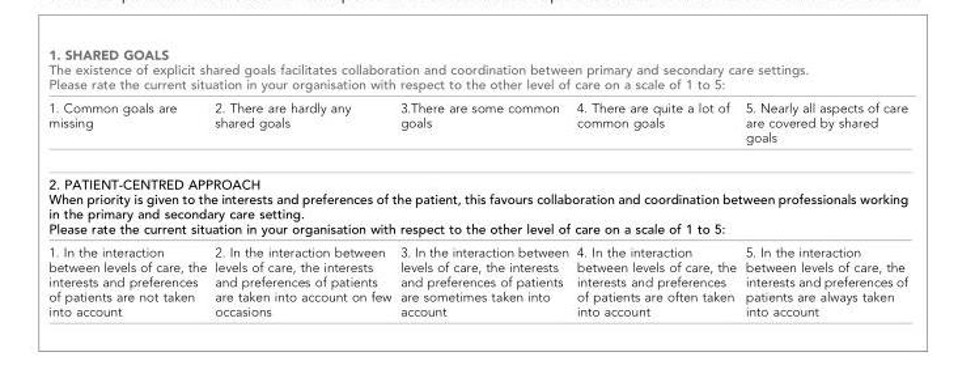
<table><thead><tr><td colspan="5">1. SHARED GOALS The existence of explicit shared goals facilitates collaboration and coordination between primary and secondary care settings. Please rate the current situation in your organisation with respect to the other level of care on a scale of 1 to 5:</td></tr><tr><td>1. Common goals are missing</td><td>2. There are hardly any shared goals</td><td>3.There are some common goals</td><td>4. There are quite a lot of common goals</td><td>5. Nearly all aspects of care are covered by shared goals</td></tr></thead><tbody><tr><td colspan="5">2. PATIENT-CENTRED APPROACH When priority is given to the interests and preferences of the patient, this favours collaboration and coordination between professionals working in the primary and secondary care setting. Please rate the current situation in your organisation with respect to the other level of care on a scale of 1 to 5:</td></tr><tr><td>1. In the interaction between levels of care, the interests and preferences of patients are not taken into account</td><td>2. In the interaction between levels of care, the interests and preferences of patients are taken into account on few occasions</td><td>3. In the interaction between levels of care, the interests and preferences of patients are sometimes taken into account</td><td>4. In the interaction between levels of care, the interests and preferences of patients are often taken into account</td><td>5. In the interaction between levels of care, the interests and preferences of patients are always taken into account</td></tr></tbody></table>